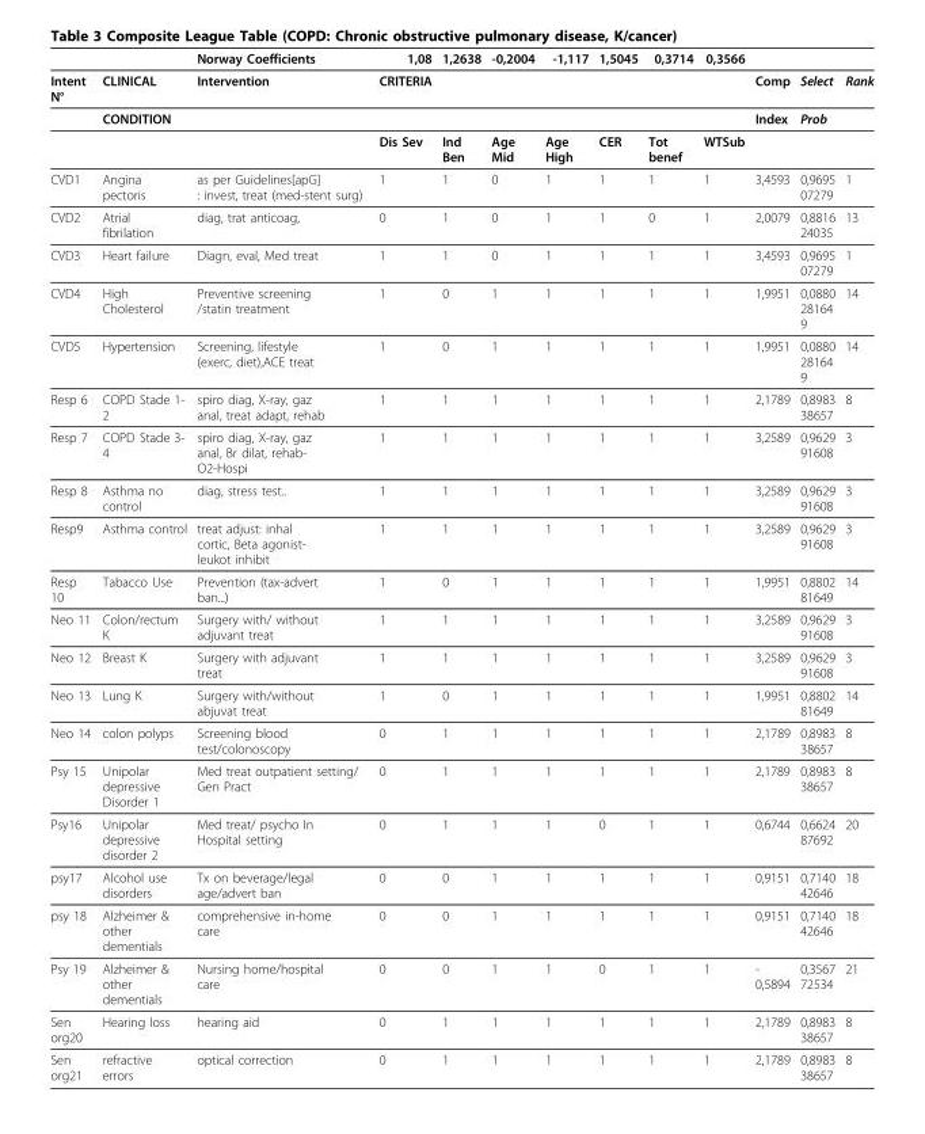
<table><thead><tr><td></td><td></td><td>Norway Coefficients</td><td>1,08</td><td>1,2638</td><td>-0,2004</td><td>-1,117</td><td>1,5045</td><td>0,3714</td><td>0,3566</td><td></td><td></td><td></td></tr></thead><tbody><tr><td rowspan="3">Intent N°</td><td>CLINICAL</td><td>Intervention</td><td>CRITERIA</td><td></td><td></td><td></td><td></td><td></td><td></td><td>Comp</td><td>Select</td><td>Rank</td></tr><tr><td>CONDITION</td><td></td><td></td><td></td><td></td><td></td><td></td><td></td><td></td><td>Index</td><td>Prob</td><td></td></tr><tr><td></td><td></td><td>Dis Sev</td><td>Ind Ben</td><td>Age Mid</td><td>Age High</td><td>CER</td><td>Tot benef</td><td>WTSub</td><td></td><td></td><td></td></tr><tr><td>CVD1</td><td>Angina pectoris</td><td>as per Guidelines[apG] : invest, treat (med-stent surg)</td><td>1</td><td>1</td><td>0</td><td>1</td><td>1</td><td>1</td><td>1</td><td>3,4593</td><td>0,9695 07279</td><td>1</td></tr><tr><td>CVD2</td><td>Atrial fibrilation</td><td>diag, trat anticoag,</td><td>0</td><td>1</td><td>0</td><td>1</td><td>1</td><td>0</td><td>1</td><td>2,0079</td><td>0,8816 24035</td><td>13</td></tr><tr><td>CVD3</td><td>Heart failure</td><td>Diagn, eval, Med treat</td><td>1</td><td>1</td><td>0</td><td>1</td><td>1</td><td>1</td><td>1</td><td>3,4593</td><td>0,9695 07279</td><td>1</td></tr><tr><td>CVD4</td><td>High Cholesterol</td><td>Preventive screening /statin treatment</td><td>1</td><td>0</td><td>1</td><td>1</td><td>1</td><td>1</td><td>1</td><td>1,9951</td><td>0,0880 28164 9</td><td>14</td></tr><tr><td>CVD5</td><td>Hypertension</td><td>Screening, lifestyle (exerc, diet),ACE treat</td><td>1</td><td>0</td><td>1</td><td>1</td><td>1</td><td>1</td><td>1</td><td>1,9951</td><td>0,0880 28164 9</td><td>14</td></tr><tr><td>Resp 6</td><td>COPD Stade 1- 2</td><td>spiro diag, X-ray, gaz anal, treat adapt, rehab</td><td>1</td><td>1</td><td>1</td><td>1</td><td>1</td><td>1</td><td>1</td><td>2,1789</td><td>0,8983 38657</td><td>8</td></tr><tr><td>Resp 7</td><td>COPD Stade 3- 4</td><td>spiro diag, X-ray, gaz anal, Br dilat, rehab- O2-Hospi</td><td>1</td><td>1</td><td>1</td><td>1</td><td>1</td><td>1</td><td>1</td><td>3,2589</td><td>0,9629 91608</td><td>3</td></tr><tr><td>Resp 8</td><td>Asthma no control</td><td>diag, stress test..</td><td>1</td><td>1</td><td>1</td><td>1</td><td>1</td><td>1</td><td>1</td><td>3,2589</td><td>0,9629 91608</td><td>3</td></tr><tr><td>Resp9</td><td>Asthma control</td><td>treat adjust: inhal cortic, Beta agonist- leukot inhibit</td><td>1</td><td>1</td><td>1</td><td>1</td><td>1</td><td>1</td><td>1</td><td>3,2589</td><td>0,9629 91608</td><td>3</td></tr><tr><td>Resp 10</td><td>Tabacco Use</td><td>Prevention (tax-advert ban...)</td><td>1</td><td>0</td><td>1</td><td>1</td><td>1</td><td>1</td><td>1</td><td>1,9951</td><td>0,8802 81649</td><td>14</td></tr><tr><td>Neo 11</td><td>Colon/rectum K</td><td>Surgery with/ without adjuvant treat</td><td>1</td><td>1</td><td>1</td><td>1</td><td>1</td><td>1</td><td>1</td><td>3,2589</td><td>0,9629 91608</td><td>3</td></tr><tr><td>Neo 12</td><td>Breast K</td><td>Surgery with adjuvant treat</td><td>1</td><td>1</td><td>1</td><td>1</td><td>1</td><td>1</td><td>1</td><td>3,2589</td><td>0,9629 91608</td><td>3</td></tr><tr><td>Neo 13</td><td>Lung K</td><td>Surgery with/without abjuvat treat</td><td>1</td><td>0</td><td>1</td><td>1</td><td>1</td><td>1</td><td>1</td><td>1,9951</td><td>0,8802 81649</td><td>14</td></tr><tr><td>Neo 14</td><td>colon polyps</td><td>Screening blood test/colonoscopy</td><td>0</td><td>1</td><td>1</td><td>1</td><td>1</td><td>1</td><td>1</td><td>2,1789</td><td>0,8983 38657</td><td>8</td></tr><tr><td>Psy 15</td><td>Unipolar depressive Disorder 1</td><td>Med treat outpatient setting/ Gen Pract</td><td>0</td><td>1</td><td>1</td><td>1</td><td>1</td><td>1</td><td>1</td><td>2,1789</td><td>0,8983 38657</td><td>8</td></tr><tr><td>Psy16</td><td>Unipolar depressive disorder 2</td><td>Med treat/ psycho In Hospital setting</td><td>0</td><td>1</td><td>1</td><td>1</td><td>0</td><td>1</td><td>1</td><td>0,6744</td><td>0,6624 87692</td><td>20</td></tr><tr><td>psy17</td><td>Alcohol use disorders</td><td>Tx on beverage/legal age/advert ban</td><td>0</td><td>0</td><td>1</td><td>1</td><td>1</td><td>1</td><td>1</td><td>0,9151</td><td>0,7140 42646</td><td>18</td></tr><tr><td>psy 18</td><td>Alzheimer &amp; other dementials</td><td>comprehensive in-home care</td><td>0</td><td>0</td><td>1</td><td>1</td><td>1</td><td>1</td><td>1</td><td>0,9151</td><td>0,7140 42646</td><td>18</td></tr><tr><td>Psy 19</td><td>Alzheimer &amp; other dementials</td><td>Nursing home/hospital care</td><td>0</td><td>0</td><td>1</td><td>1</td><td>0</td><td>1</td><td>1</td><td>- 0,5894</td><td>0,3567 72534</td><td>21</td></tr><tr><td>Sen org20</td><td>Hearing loss</td><td>hearing aid</td><td>0</td><td>1</td><td>1</td><td>1</td><td>1</td><td>1</td><td>1</td><td>2,1789</td><td>0,8983 38657</td><td>8</td></tr><tr><td>Sen org21</td><td>refractive errors</td><td>optical correction</td><td>0</td><td>1</td><td>1</td><td>1</td><td>1</td><td>1</td><td>1</td><td>2,1789</td><td>0,8983 38657</td><td>8</td></tr></tbody></table>